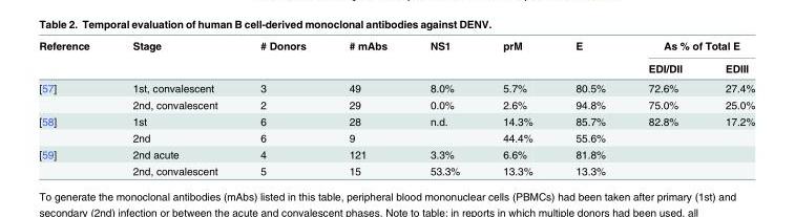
<table><thead><tr><td rowspan="2">Reference</td><td rowspan="2">Stage</td><td rowspan="2"># Donors</td><td rowspan="2"># mAbs</td><td rowspan="2">NS1</td><td rowspan="2">prM</td><td rowspan="2">E</td><td colspan="2">As % of Total E</td></tr><tr><td>EDI/DII</td><td>EDIII</td></tr></thead><tbody><tr><td rowspan="2">[57]</td><td>1st, convalescent</td><td>3</td><td>49</td><td>8.0%</td><td>5.7%</td><td>80.5%</td><td>72.6%</td><td>27.4%</td></tr><tr><td>2nd, convalescent</td><td>2</td><td>29</td><td>0.0%</td><td>2.6%</td><td>94.8%</td><td>75.0%</td><td>25.0%</td></tr><tr><td rowspan="2">[58]</td><td>1st</td><td>6</td><td>28</td><td>n.d.</td><td>14.3%</td><td>85.7%</td><td>82.8%</td><td>17.2%</td></tr><tr><td>2nd</td><td>6</td><td>9</td><td></td><td>44.4%</td><td>55.6%</td><td></td><td></td></tr><tr><td rowspan="2">[59]</td><td>2nd acute</td><td>4</td><td>121</td><td>3.3%</td><td>6.6%</td><td>81.8%</td><td></td><td></td></tr><tr><td>2nd, convalescent</td><td>5</td><td>15</td><td>53.3%</td><td>13.3%</td><td>13.3%</td><td></td><td></td></tr></tbody></table>